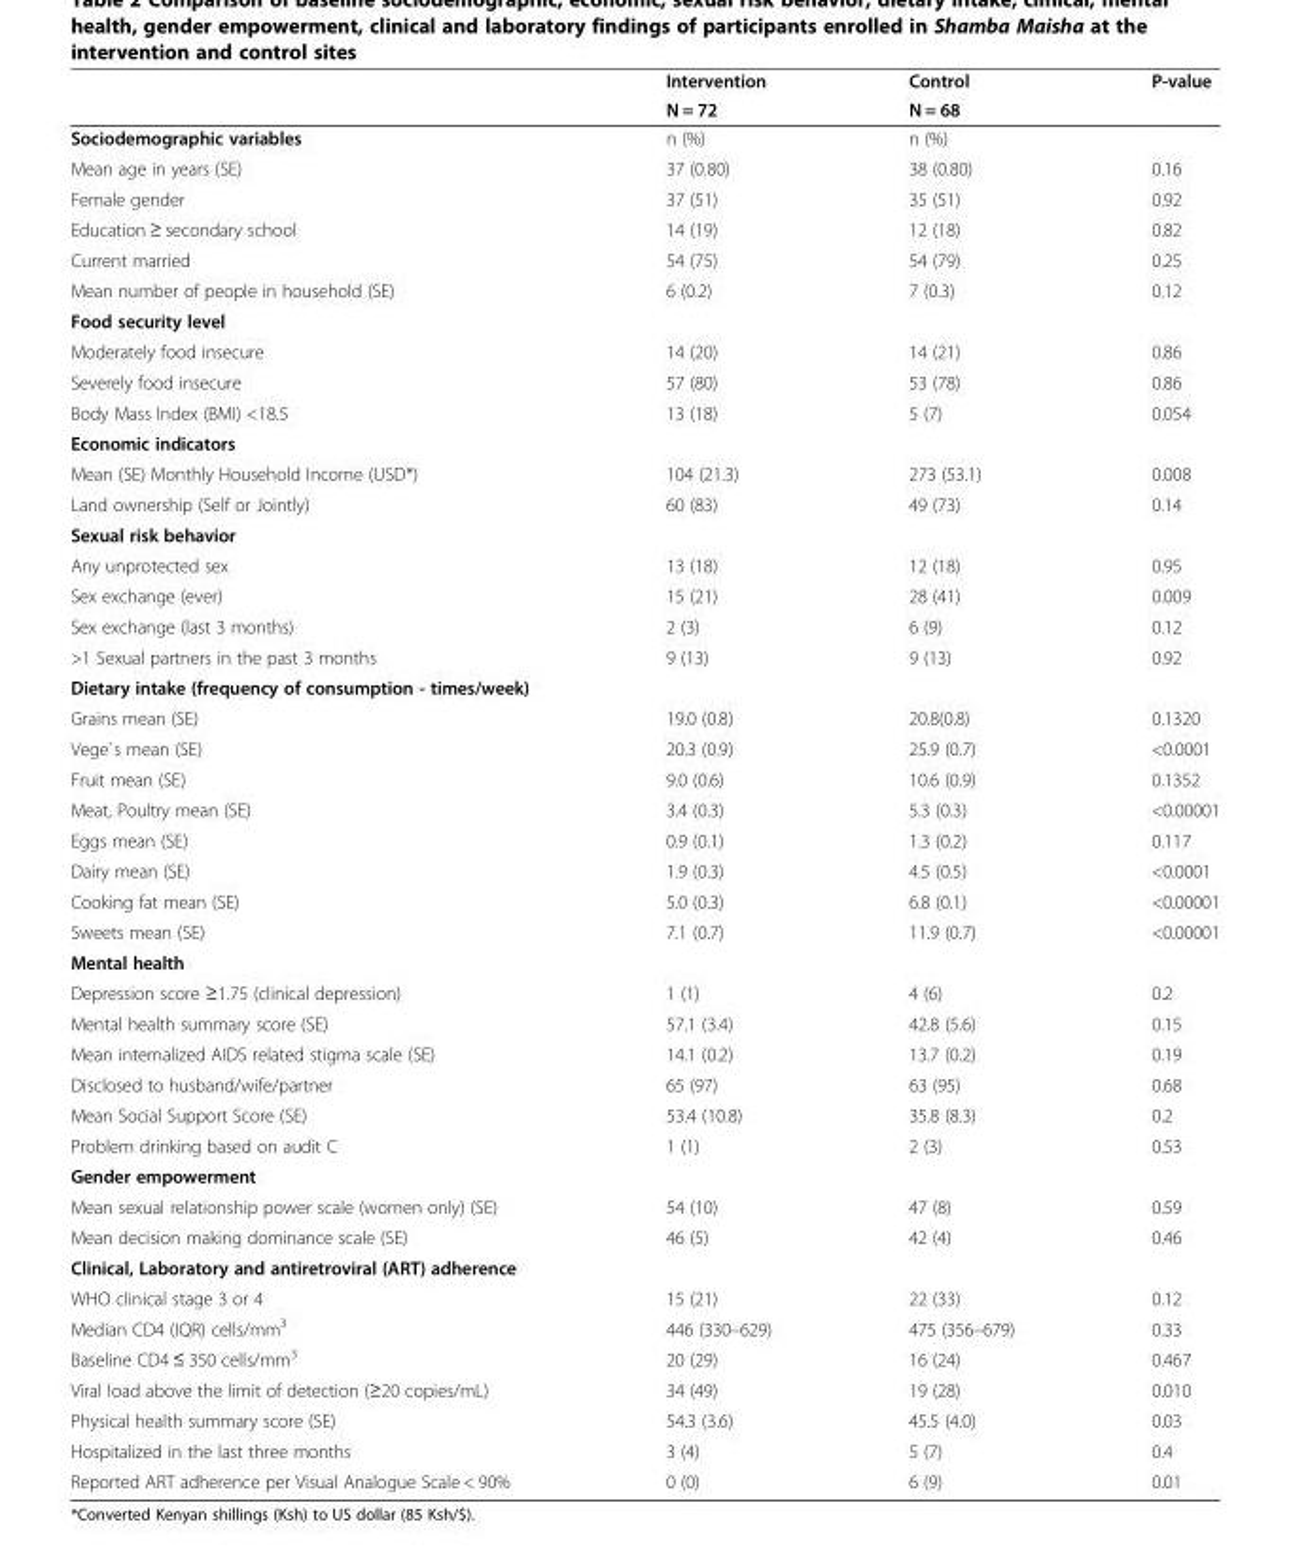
<table><thead><tr><td rowspan="2"></td><td rowspan="2">Intervention N = 72</td><td rowspan="2">Control N = 68</td><td rowspan="2">P-value</td></tr><tr></tr></thead><tbody><tr><td>Sociodemographic variables</td><td>n (%)</td><td>n (%)</td><td></td></tr><tr><td>Mean age in years (SE)</td><td>37 (0.80)</td><td>38 (0.80)</td><td>0.16</td></tr><tr><td>Female gender</td><td>37 (51)</td><td>35 (51)</td><td>0.92</td></tr><tr><td>Education ≥ secondary school</td><td>14 (19)</td><td>12 (18)</td><td>0.82</td></tr><tr><td>Current married</td><td>54 (75)</td><td>54 (79)</td><td>0.25</td></tr><tr><td>Mean number of people in household (SE)</td><td>6 (0.2)</td><td>7 (0.3)</td><td>0.12</td></tr><tr><td colspan="4">Food security level</td></tr><tr><td>Moderately food insecure</td><td>14 (20)</td><td>14 (21)</td><td>0.86</td></tr><tr><td>Severely food insecure</td><td>57 (80)</td><td>53 (78)</td><td>0.86</td></tr><tr><td>Body Mass Index (BMI) &lt;18.5</td><td>13 (18)</td><td>5 (7)</td><td>0.054</td></tr><tr><td colspan="4">Economic indicators</td></tr><tr><td>Mean (SE) Monthly Household Income (USD*)</td><td>104 (21.3)</td><td>273 (53.1)</td><td>0.008</td></tr><tr><td>Land ownership (Self or Jointly)</td><td>60 (83)</td><td>49 (73)</td><td>0.14</td></tr><tr><td colspan="4">Sexual risk behavior</td></tr><tr><td>Any unprotected sex</td><td>13 (18)</td><td>12 (18)</td><td>0.95</td></tr><tr><td>Sex exchange (ever)</td><td>15 (21)</td><td>28 (41)</td><td>0.009</td></tr><tr><td>Sex exchange (last 3 months)</td><td>2 (3)</td><td>6 (9)</td><td>0.12</td></tr><tr><td>&gt;1 Sexual partners in the past 3 months</td><td>9 (13)</td><td>9 (13)</td><td>0.92</td></tr><tr><td colspan="4">Dietary intake (frequency of consumption - times/week)</td></tr><tr><td>Grains mean (SE)</td><td>19.0 (0.8)</td><td>20.8(0.8)</td><td>0.1320</td></tr><tr><td>Vege`s mean (SE)</td><td>20.3 (0.9)</td><td>25.9 (0.7)</td><td>&lt;0.0001</td></tr><tr><td>Fruit mean (SE)</td><td>9.0 (0.6)</td><td>10.6 (0.9)</td><td>0.1352</td></tr><tr><td>Meat, Poultry mean (SE)</td><td>3.4 (0.3)</td><td>5.3 (0.3)</td><td>&lt;0.00001</td></tr><tr><td>Eggs mean (SE)</td><td>0.9 (0.1)</td><td>1.3 (0.2)</td><td>0.117</td></tr><tr><td>Dairy mean (SE)</td><td>1.9 (0.3)</td><td>4.5 (0.5)</td><td>&lt;0.0001</td></tr><tr><td>Cooking fat mean (SE)</td><td>5.0 (0.3)</td><td>6.8 (0.1)</td><td>&lt;0.00001</td></tr><tr><td>Sweets mean (SE)</td><td>7.1 (0.7)</td><td>11.9 (0.7)</td><td>&lt;0.00001</td></tr><tr><td colspan="4">Mental health</td></tr><tr><td>Depression score ≥1.75 (clinical depression)</td><td>1 (1)</td><td>4 (6)</td><td>0.2</td></tr><tr><td>Mental health summary score (SE)</td><td>57.1 (3.4)</td><td>42.8 (5.6)</td><td>0.15</td></tr><tr><td>Mean internalized AIDS related stigma scale (SE)</td><td>14.1 (0.2)</td><td>13.7 (0.2)</td><td>0.19</td></tr><tr><td>Disclosed to husband/wife/partner</td><td>65 (97)</td><td>63 (95)</td><td>0.68</td></tr><tr><td>Mean Social Support Score (SE)</td><td>53.4 (10.8)</td><td>35.8 (8.3)</td><td>0.2</td></tr><tr><td>Problem drinking based on audit C</td><td>1 (1)</td><td>2 (3)</td><td>0.53</td></tr><tr><td colspan="4">Gender empowerment</td></tr><tr><td>Mean sexual relationship power scale (women only) (SE)</td><td>54 (10)</td><td>47 (8)</td><td>0.59</td></tr><tr><td>Mean decision making dominance scale (SE)</td><td>46 (5)</td><td>42 (4)</td><td>0.46</td></tr><tr><td colspan="4">Clinical, Laboratory and antiretroviral (ART) adherence</td></tr><tr><td>WHO clinical stage 3 or 4</td><td>15 (21)</td><td>22 (33)</td><td>0.12</td></tr><tr><td>Median CD4 (IQR) cells/mm<sup>3</sup></td><td>446 (330–629)</td><td>475 (356–679)</td><td>0.33</td></tr><tr><td>Baseline CD4 ≤ 350 cells/mm<sup>3</sup></td><td>20 (29)</td><td>16 (24)</td><td>0.467</td></tr><tr><td>Viral load above the limit of detection (≥20 copies/mL)</td><td>34 (49)</td><td>19 (28)</td><td>0.010</td></tr><tr><td>Physical health summary score (SE)</td><td>54.3 (3.6)</td><td>45.5 (4.0)</td><td>0.03</td></tr><tr><td>Hospitalized in the last three months</td><td>3 (4)</td><td>5 (7)</td><td>0.4</td></tr><tr><td>Reported ART adherence per Visual Analogue Scale &lt; 90%</td><td>0 (0)</td><td>6 (9)</td><td>0.01</td></tr></tbody></table>